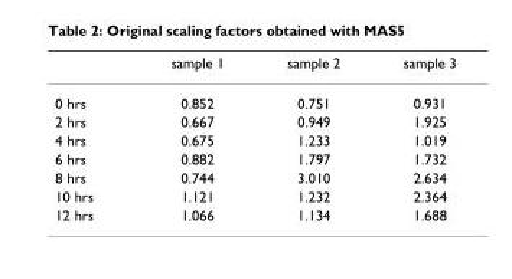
<table><thead><tr><td></td><td>sample 1</td><td>sample 2</td><td>sample 3</td></tr></thead><tbody><tr><td>0 hrs</td><td>0.852</td><td>0.751</td><td>0.931</td></tr><tr><td>2 hrs</td><td>0.667</td><td>0.949</td><td>1.925</td></tr><tr><td>4 hrs</td><td>0.675</td><td>1.233</td><td>1.019</td></tr><tr><td>6 hrs</td><td>0.882</td><td>1.797</td><td>1.732</td></tr><tr><td>8 hrs</td><td>0.744</td><td>3.010</td><td>2.634</td></tr><tr><td>10 hrs</td><td>1.121</td><td>1.232</td><td>2.364</td></tr><tr><td>12 hrs</td><td>1.066</td><td>1.134</td><td>1.688</td></tr></tbody></table>